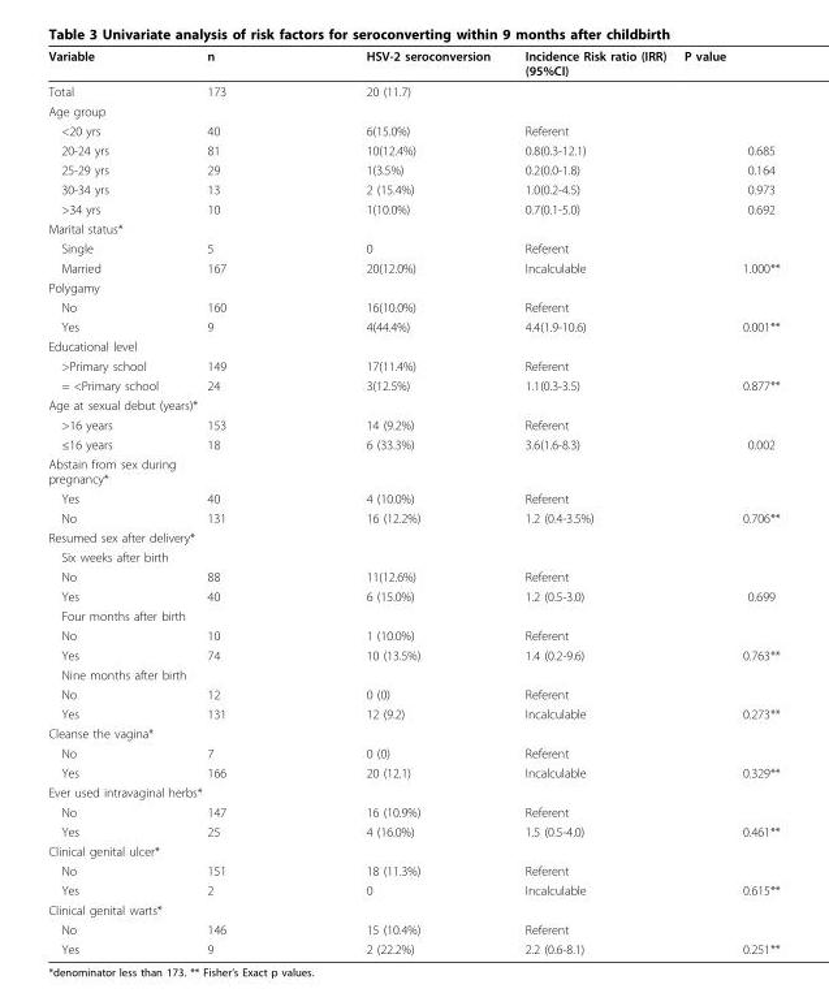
<table><thead><tr><td>Variable</td><td>n</td><td>HSV-2 seroconversion</td><td>Incidence Risk ratio (IRR) (95%CI)</td><td>P value</td></tr></thead><tbody><tr><td>Total</td><td>173</td><td>20 (11.7)</td><td></td><td></td></tr><tr><td colspan="5">Age group</td></tr><tr><td>&lt;20 yrs</td><td>40</td><td>6(15.0%)</td><td>Referent</td><td></td></tr><tr><td>20-24 yrs</td><td>81</td><td>10(12.4%)</td><td>0.8(0.3-12.1)</td><td>0.685</td></tr><tr><td>25-29 yrs</td><td>29</td><td>1(3.5%)</td><td>0.2(0.0-1.8)</td><td>0.164</td></tr><tr><td>30-34 yrs</td><td>13</td><td>2 (15.4%)</td><td>1.0(0.2-4.5)</td><td>0.973</td></tr><tr><td>&gt;34 yrs</td><td>10</td><td>1(10.0%)</td><td>0.7(0.1-5.0)</td><td>0.692</td></tr><tr><td colspan="5">Marital status*</td></tr><tr><td>Single</td><td>5</td><td>0</td><td>Referent</td><td></td></tr><tr><td>Married</td><td>167</td><td>20(12.0%)</td><td>Incalculable</td><td>1.000**</td></tr><tr><td colspan="5">Polygamy</td></tr><tr><td>No</td><td>160</td><td>16(10.0%)</td><td>Referent</td><td></td></tr><tr><td>Yes</td><td>9</td><td>4(44.4%)</td><td>4.4(1.9-10.6)</td><td>0.001**</td></tr><tr><td colspan="5">Educational level</td></tr><tr><td>&gt;Primary school</td><td>149</td><td>17(11.4%)</td><td>Referent</td><td></td></tr><tr><td>= &lt;Primary school</td><td>24</td><td>3(12.5%)</td><td>1.1(0.3-3.5)</td><td>0.877**</td></tr><tr><td colspan="5">Age at sexual debut (years)*</td></tr><tr><td>&gt;16 years</td><td>153</td><td>14 (9.2%)</td><td>Referent</td><td></td></tr><tr><td>≤16 years</td><td>18</td><td>6 (33.3%)</td><td>3.6(1.6-8.3)</td><td>0.002</td></tr><tr><td colspan="5">Abstain from sex during pregnancy*</td></tr><tr><td>Yes</td><td>40</td><td>4 (10.0%)</td><td>Referent</td><td></td></tr><tr><td>No</td><td>131</td><td>16 (12.2%)</td><td>1.2 (0.4-3.5%)</td><td>0.706**</td></tr><tr><td colspan="5">Resumed sex after delivery*</td></tr><tr><td colspan="5">Six weeks after birth</td></tr><tr><td>No</td><td>88</td><td>11(12.6%)</td><td>Referent</td><td></td></tr><tr><td>Yes</td><td>40</td><td>6 (15.0%)</td><td>1.2 (0.5-3.0)</td><td>0.699</td></tr><tr><td colspan="5">Four months after birth</td></tr><tr><td>No</td><td>10</td><td>1 (10.0%)</td><td>Referent</td><td></td></tr><tr><td>Yes</td><td>74</td><td>10 (13.5%)</td><td>1.4 (0.2-9.6)</td><td>0.763**</td></tr><tr><td colspan="5">Nine months after birth</td></tr><tr><td>No</td><td>12</td><td>0 (0)</td><td>Referent</td><td></td></tr><tr><td>Yes</td><td>131</td><td>12 (9.2)</td><td>Incalculable</td><td>0.273**</td></tr><tr><td colspan="5">Cleanse the vagina*</td></tr><tr><td>No</td><td>7</td><td>0 (0)</td><td>Referent</td><td></td></tr><tr><td>Yes</td><td>166</td><td>20 (12.1)</td><td>Incalculable</td><td>0.329**</td></tr><tr><td colspan="5">Ever used intravaginal herbs*</td></tr><tr><td>No</td><td>147</td><td>16 (10.9%)</td><td>Referent</td><td></td></tr><tr><td>Yes</td><td>25</td><td>4 (16.0%)</td><td>1.5 (0.5-4.0)</td><td>0.461**</td></tr><tr><td colspan="5">Clinical genital ulcer*</td></tr><tr><td>No</td><td>151</td><td>18 (11.3%)</td><td>Referent</td><td></td></tr><tr><td>Yes</td><td>2</td><td>0</td><td>Incalculable</td><td>0.615**</td></tr><tr><td colspan="5">Clinical genital warts*</td></tr><tr><td>No</td><td>146</td><td>15 (10.4%)</td><td>Referent</td><td></td></tr><tr><td>Yes</td><td>9</td><td>2 (22.2%)</td><td>2.2 (0.6-8.1)</td><td>0.251**</td></tr></tbody></table>